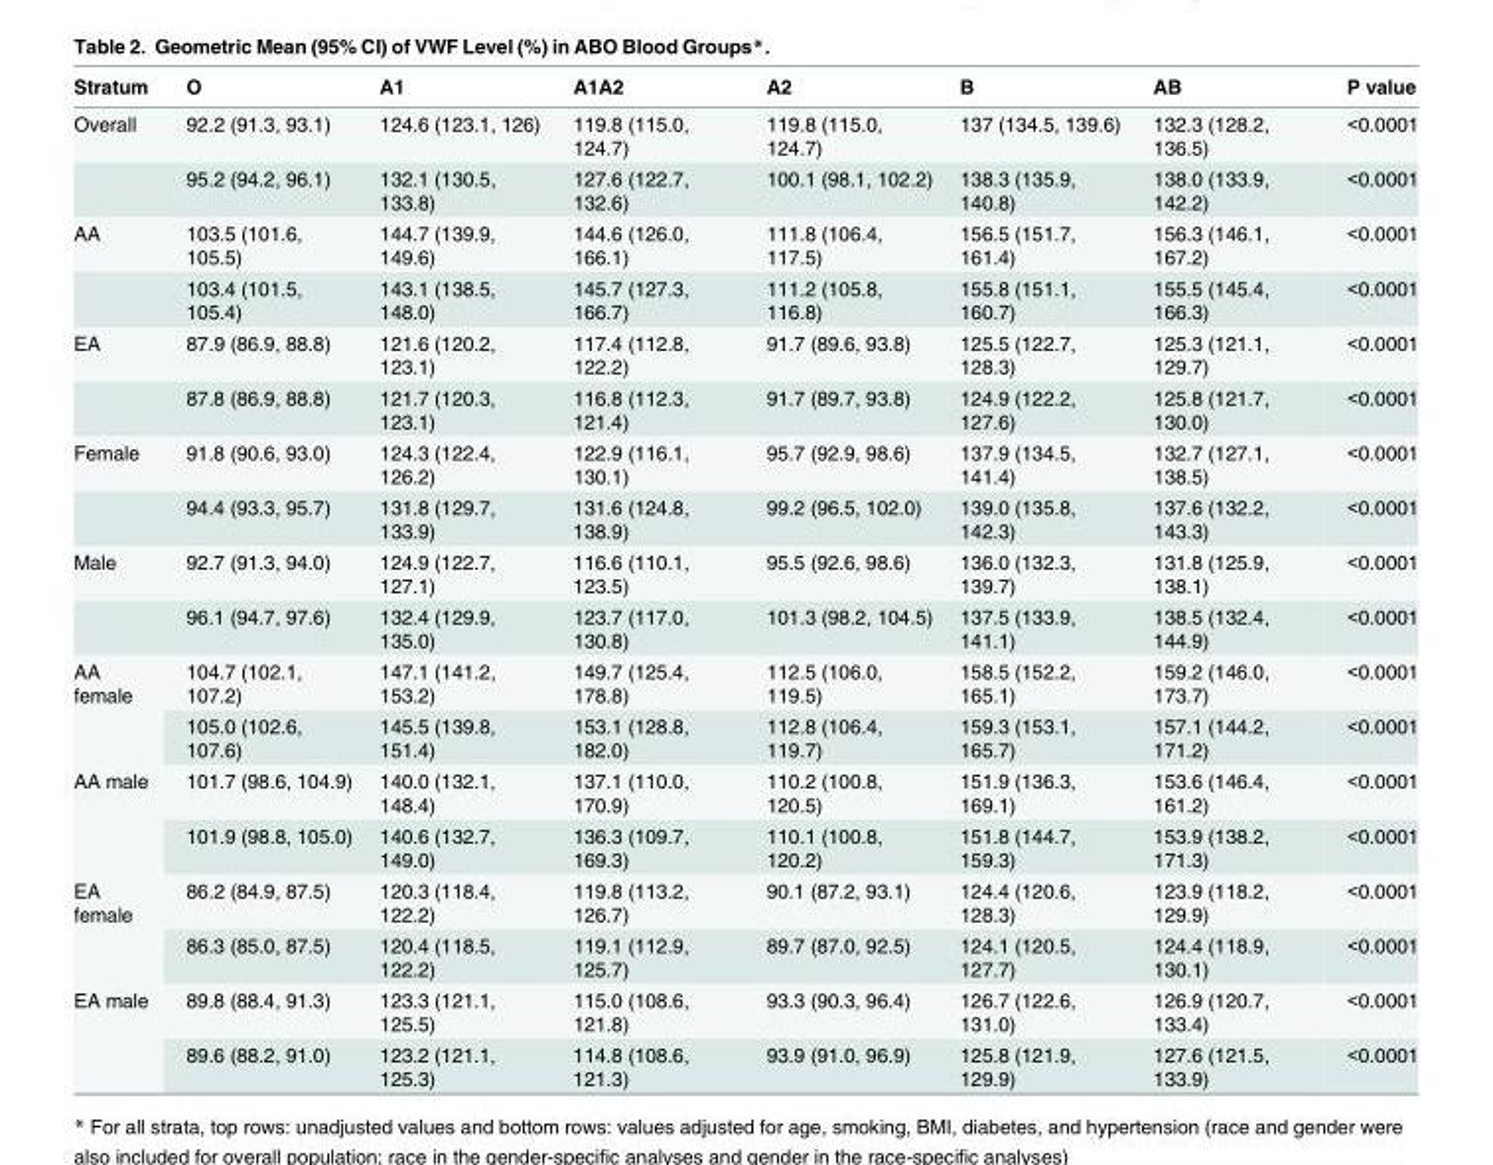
<table><thead><tr><td>Stratum</td><td>O</td><td>A1</td><td>A1A2</td><td>A2</td><td>B</td><td>AB</td><td>P value</td></tr></thead><tbody><tr><td rowspan="2">Overall</td><td>92.2 (91.3, 93.1)</td><td>124.6 (123.1, 126)</td><td>119.8 (115.0, 124.7)</td><td>119.8 (115.0, 124.7)</td><td>137 (134.5, 139.6)</td><td>132.3 (128.2, 136.5)</td><td>&lt;0.0001</td></tr><tr><td>95.2 (94.2, 96.1)</td><td>132.1 (130.5, 133.8)</td><td>127.6 (122.7, 132.6)</td><td>100.1 (98.1, 102.2)</td><td>138.3 (135.9, 140.8)</td><td>138.0 (133.9, 142.2)</td><td>&lt;0.0001</td></tr><tr><td rowspan="2">AA</td><td>103.5 (101.6, 105.5)</td><td>144.7 (139.9, 149.6)</td><td>144.6 (126.0, 166.1)</td><td>111.8 (106.4, 117.5)</td><td>156.5 (151.7, 161.4)</td><td>156.3 (146.1, 167.2)</td><td>&lt;0.0001</td></tr><tr><td>103.4 (101.5, 105.4)</td><td>143.1 (138.5, 148.0)</td><td>145.7 (127.3, 166.7)</td><td>111.2 (105.8, 116.8)</td><td>155.8 (151.1, 160.7)</td><td>155.5 (145.4, 166.3)</td><td>&lt;0.0001</td></tr><tr><td rowspan="2">EA</td><td>87.9 (86.9, 88.8)</td><td>121.6 (120.2, 123.1)</td><td>117.4 (112.8, 122.2)</td><td>91.7 (89.6, 93.8)</td><td>125.5 (122.7, 128.3)</td><td>125.3 (121.1, 129.7)</td><td>&lt;0.0001</td></tr><tr><td>87.8 (86.9, 88.8)</td><td>121.7 (120.3, 123.1)</td><td>116.8 (112.3, 121.4)</td><td>91.7 (89.7, 93.8)</td><td>124.9 (122.2, 127.6)</td><td>125.8 (121.7, 130.0)</td><td>&lt;0.0001</td></tr><tr><td rowspan="2">Female</td><td>91.8 (90.6, 93.0)</td><td>124.3 (122.4, 126.2)</td><td>122.9 (116.1, 130.1)</td><td>95.7 (92.9, 98.6)</td><td>137.9 (134.5, 141.4)</td><td>132.7 (127.1, 138.5)</td><td>&lt;0.0001</td></tr><tr><td>94.4 (93.3, 95.7)</td><td>131.8 (129.7, 133.9)</td><td>131.6 (124.8, 138.9)</td><td>99.2 (96.5, 102.0)</td><td>139.0 (135.8, 142.3)</td><td>137.6 (132.2, 143.3)</td><td>&lt;0.0001</td></tr><tr><td rowspan="2">Male</td><td>92.7 (91.3, 94.0)</td><td>124.9 (122.7, 127.1)</td><td>116.6 (110.1, 123.5)</td><td>95.5 (92.6, 98.6)</td><td>136.0 (132.3, 139.7)</td><td>131.8 (125.9, 138.1)</td><td>&lt;0.0001</td></tr><tr><td>96.1 (94.7, 97.6)</td><td>132.4 (129.9, 135.0)</td><td>123.7 (117.0, 130.8)</td><td>101.3 (98.2, 104.5)</td><td>137.5 (133.9, 141.1)</td><td>138.5 (132.4, 144.9)</td><td>&lt;0.0001</td></tr><tr><td rowspan="2">AA female</td><td>104.7 (102.1, 107.2)</td><td>147.1 (141.2, 153.2)</td><td>149.7 (125.4, 178.8)</td><td>112.5 (106.0, 119.5)</td><td>158.5 (152.2, 165.1)</td><td>159.2 (146.0, 173.7)</td><td>&lt;0.0001</td></tr><tr><td>105.0 (102.6, 107.6)</td><td>145.5 (139.8, 151.4)</td><td>153.1 (128.8, 182.0)</td><td>112.8 (106.4, 119.7)</td><td>159.3 (153.1, 165.7)</td><td>157.1 (144.2, 171.2)</td><td>&lt;0.0001</td></tr><tr><td rowspan="2">AA male</td><td>101.7 (98.6, 104.9)</td><td>140.0 (132.1, 148.4)</td><td>137.1 (110.0, 170.9)</td><td>110.2 (100.8, 120.5)</td><td>151.9 (136.3, 169.1)</td><td>153.6 (146.4, 161.2)</td><td>&lt;0.0001</td></tr><tr><td>101.9 (98.8, 105.0)</td><td>140.6 (132.7, 149.0)</td><td>136.3 (109.7, 169.3)</td><td>110.1 (100.8, 120.2)</td><td>151.8 (144.7, 159.3)</td><td>153.9 (138.2, 171.3)</td><td>&lt;0.0001</td></tr><tr><td rowspan="2">EA female</td><td>86.2 (84.9, 87.5)</td><td>120.3 (118.4, 122.2)</td><td>119.8 (113.2, 126.7)</td><td>90.1 (87.2, 93.1)</td><td>124.4 (120.6, 128.3)</td><td>123.9 (118.2, 129.9)</td><td>&lt;0.0001</td></tr><tr><td>86.3 (85.0, 87.5)</td><td>120.4 (118.5, 122.2)</td><td>119.1 (112.9, 125.7)</td><td>89.7 (87.0, 92.5)</td><td>124.1 (120.5, 127.7)</td><td>124.4 (118.9, 130.1)</td><td>&lt;0.0001</td></tr><tr><td rowspan="2">EA male</td><td>89.8 (88.4, 91.3)</td><td>123.3 (121.1, 125.5)</td><td>115.0 (108.6, 121.8)</td><td>93.3 (90.3, 96.4)</td><td>126.7 (122.6, 131.0)</td><td>126.9 (120.7, 133.4)</td><td>&lt;0.0001</td></tr><tr><td>89.6 (88.2, 91.0)</td><td>123.2 (121.1, 125.3)</td><td>114.8 (108.6, 121.3)</td><td>93.9 (91.0, 96.9)</td><td>125.8 (121.9, 129.9)</td><td>127.6 (121.5, 133.9)</td><td>&lt;0.0001</td></tr></tbody></table>